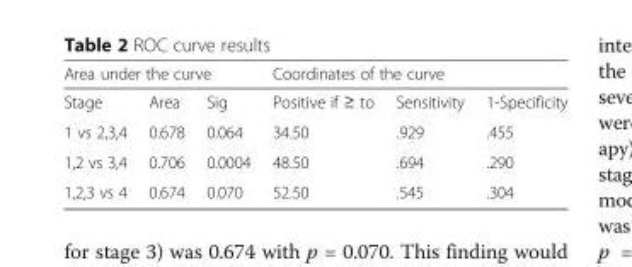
<table><thead><tr><td colspan="3">Area under the curve</td><td colspan="3">Coordinates of the curve</td></tr><tr><td>Stage</td><td>Area</td><td>Sig</td><td>Positive if ≥ to</td><td>Sensitivity</td><td>1-Specificity</td></tr></thead><tbody><tr><td>1 vs 2,3,4</td><td>0.678</td><td>0.064</td><td>34.50</td><td>.929</td><td>.455</td></tr><tr><td>1,2 vs 3,4</td><td>0.706</td><td>0.0004</td><td>48.50</td><td>.694</td><td>.290</td></tr><tr><td>1,2,3 vs 4</td><td>0.674</td><td>0.070</td><td>52.50</td><td>.545</td><td>.304</td></tr></tbody></table>